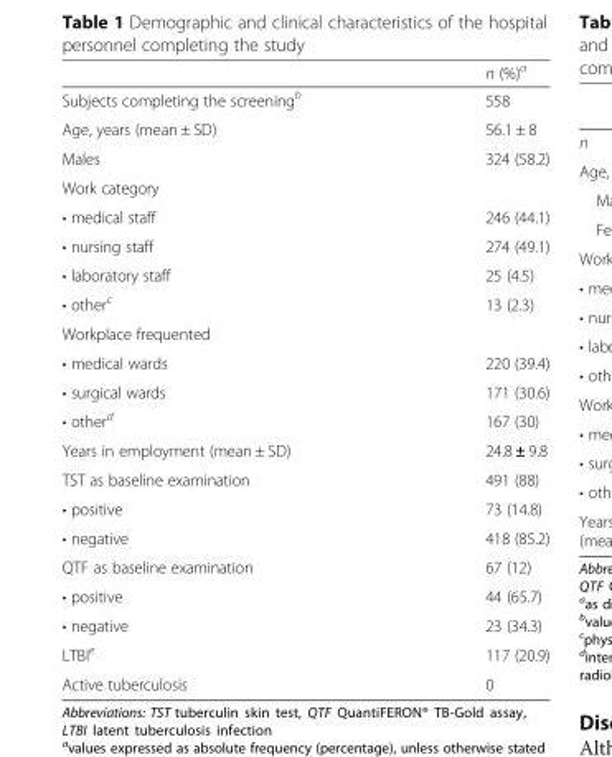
<table><thead><tr><td></td><td>n (%)<sup>a</sup></td></tr></thead><tbody><tr><td>Subjects completing the screening<sup>b</sup></td><td>558</td></tr><tr><td>Age, years (mean ± SD)</td><td>56.1 ± 8</td></tr><tr><td>Males</td><td>324 (58.2)</td></tr><tr><td colspan="2">Work category</td></tr><tr><td>• medical staff</td><td>246 (44.1)</td></tr><tr><td>• nursing staff</td><td>274 (49.1)</td></tr><tr><td>• laboratory staff</td><td>25 (4.5)</td></tr><tr><td>• other<sup>c</sup></td><td>13 (2.3)</td></tr><tr><td colspan="2">Workplace frequented</td></tr><tr><td>• medical wards</td><td>220 (39.4)</td></tr><tr><td>• surgical wards</td><td>171 (30.6)</td></tr><tr><td>• other<sup>d</sup></td><td>167 (30)</td></tr><tr><td>Years in employment (mean ± SD)</td><td>24.8 ± 9.8</td></tr><tr><td>TST as baseline examination</td><td>491 (88)</td></tr><tr><td>• positive</td><td>73 (14.8)</td></tr><tr><td>• negative</td><td>418 (85.2)</td></tr><tr><td>QTF as baseline examination</td><td>67 (12)</td></tr><tr><td>• positive</td><td>44 (65.7)</td></tr><tr><td>• negative</td><td>23 (34.3)</td></tr><tr><td>LTBI<sup>e</sup></td><td>117 (20.9)</td></tr><tr><td>Active tuberculosis</td><td>0</td></tr></tbody></table>